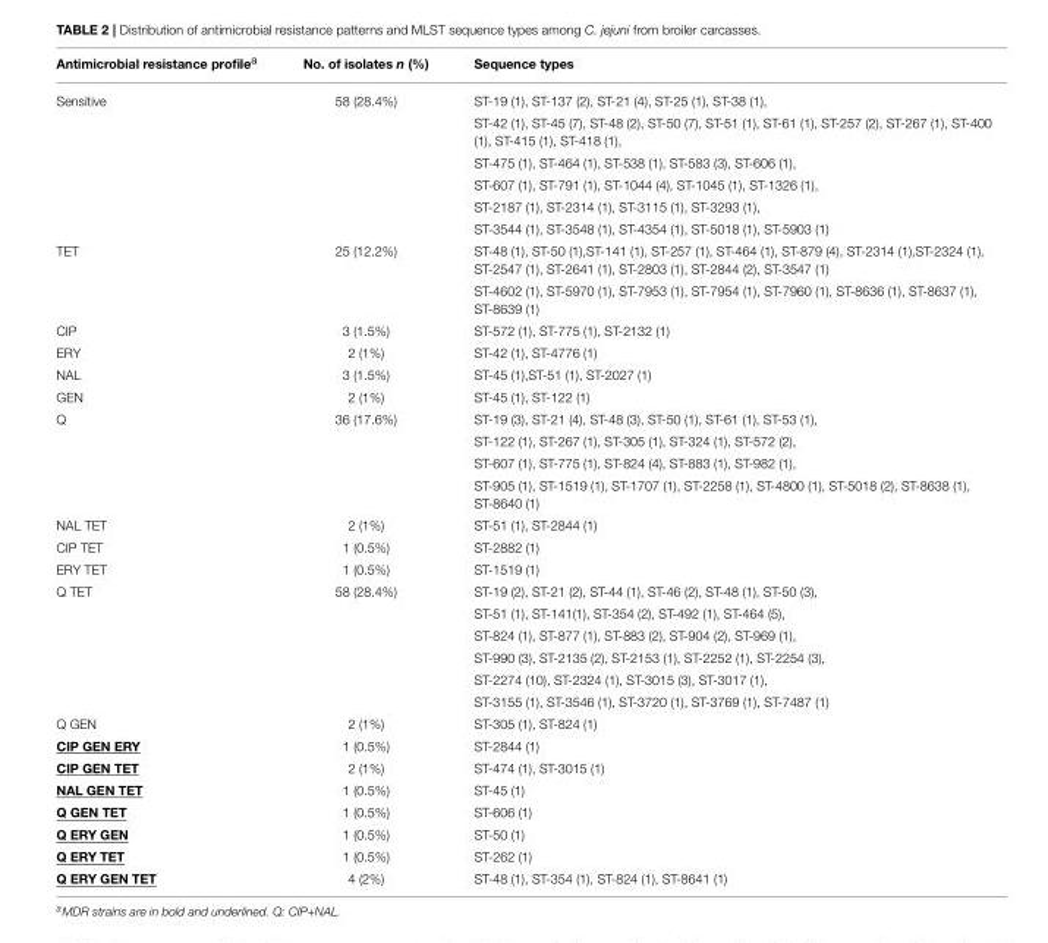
<table><thead><tr><td>Antimicrobial resistance profile<sup>a</sup></td><td>No. of isolates n (%)</td><td>Sequence types</td></tr></thead><tbody><tr><td rowspan="6">Sensitive</td><td>58 (28.4%)</td><td>ST-19 (1), ST-137 (2), ST-21 (4), ST-25 (1), ST-38 (1),</td></tr><tr><td></td><td>ST-42 (1), ST-45 (7), ST-48 (2), ST-50 (7), ST-51 (1), ST-61 (1), ST-257 (2), ST-267 (1), ST-400 (1), ST-415 (1), ST-418 (1),</td></tr><tr><td></td><td>ST-475 (1), ST-464 (1), ST-538 (1), ST-583 (3), ST-606 (1),</td></tr><tr><td></td><td>ST-607 (1), ST-791 (1), ST-1044 (4), ST-1045 (1), ST-1326 (1),</td></tr><tr><td></td><td>ST-2187 (1), ST-2314 (1), ST-3115 (1), ST-3293 (1),</td></tr><tr><td></td><td>ST-3544 (1), ST-3548 (1), ST-4354 (1), ST-5018 (1), ST-5903 (1)</td></tr><tr><td rowspan="4">TET</td><td>25 (12.2%)</td><td>ST-48 (1), ST-50 (1),ST-141 (1), ST-257 (1), ST-464 (1), ST-879 (4), ST-2314 (1),ST-2324 (1),</td></tr><tr><td></td><td>ST-2547 (1), ST-2641 (1), ST-2803 (1), ST-2844 (2), ST-3547 (1)</td></tr><tr><td></td><td>ST-4602 (1), ST-5970 (1), ST-7953 (1), ST-7954 (1), ST-7960 (1), ST-8636 (1), ST-8637 (1),</td></tr><tr><td></td><td>ST-8639 (1)</td></tr><tr><td>CIP</td><td>3 (1.5%)</td><td>ST-572 (1), ST-775 (1), ST-2132 (1)</td></tr><tr><td>ERY</td><td>2 (1%)</td><td>ST-42 (1), ST-4776 (1)</td></tr><tr><td>NAL</td><td>3 (1.5%)</td><td>ST-45 (1),ST-51 (1), ST-2027 (1)</td></tr><tr><td>GEN</td><td>2 (1%)</td><td>ST-45 (1), ST-122 (1)</td></tr><tr><td rowspan="5">Q</td><td>36 (17.6%)</td><td>ST-19 (3), ST-21 (4), ST-48 (3), ST-50 (1), ST-61 (1), ST-53 (1),</td></tr><tr><td></td><td>ST-122 (1), ST-267 (1), ST-305 (1), ST-324 (1), ST-572 (2),</td></tr><tr><td></td><td>ST-607 (1), ST-775 (1), ST-824 (4), ST-883 (1), ST-982 (1),</td></tr><tr><td></td><td>ST-905 (1), ST-1519 (1), ST-1707 (1), ST-2258 (1), ST-4800 (1), ST-5018 (2), ST-8638 (1),</td></tr><tr><td></td><td>ST-8640 (1)</td></tr><tr><td>NAL TET</td><td>2 (1%)</td><td>ST-51 (1), ST-2844 (1)</td></tr><tr><td>CIP TET</td><td>1 (0.5%)</td><td>ST-2882 (1)</td></tr><tr><td>ERY TET</td><td>1 (0.5%)</td><td>ST-1519 (1)</td></tr><tr><td rowspan="6">Q TET</td><td>58 (28.4%)</td><td>ST-19 (2), ST-21 (2), ST-44 (1), ST-46 (2), ST-48 (1), ST-50 (3),</td></tr><tr><td></td><td>ST-51 (1), ST-141(1), ST-354 (2), ST-492 (1), ST-464 (5),</td></tr><tr><td></td><td>ST-824 (1), ST-877 (1), ST-883 (2), ST-904 (2), ST-969 (1),</td></tr><tr><td></td><td>ST-990 (3), ST-2135 (2), ST-2153 (1), ST-2252 (1), ST-2254 (3),</td></tr><tr><td></td><td>ST-2274 (10), ST-2324 (1), ST-3015 (3), ST-3017 (1),</td></tr><tr><td></td><td>ST-3155 (1), ST-3546 (1), ST-3720 (1), ST-3769 (1), ST-7487 (1)</td></tr><tr><td>Q GEN</td><td>2 (1%)</td><td>ST-305 (1), ST-824 (1)</td></tr><tr><td>CIP GEN ERY</td><td>1 (0.5%)</td><td>ST-2844 (1)</td></tr><tr><td>CIP GEN TET</td><td>2 (1%)</td><td>ST-474 (1), ST-3015 (1)</td></tr><tr><td>NAL GEN TET</td><td>1 (0.5%)</td><td>ST-45 (1)</td></tr><tr><td>Q GEN TET</td><td>1 (0.5%)</td><td>ST-606 (1)</td></tr><tr><td>Q ERY GEN</td><td>1 (0.5%)</td><td>ST-50 (1)</td></tr><tr><td>Q ERY TET</td><td>1 (0.5%)</td><td>ST-262 (1)</td></tr><tr><td>Q ERY GEN TET</td><td>4 (2%)</td><td>ST-48 (1), ST-354 (1), ST-824 (1), ST-8641 (1)</td></tr></tbody></table>